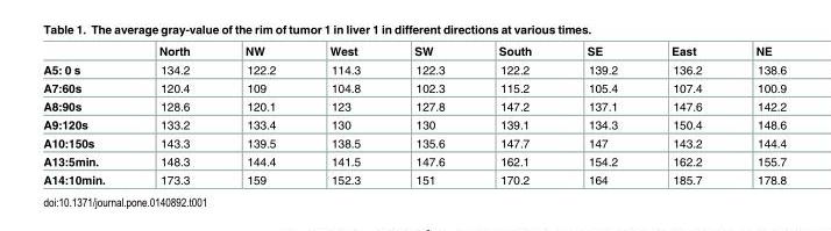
<table><thead><tr><td></td><td>North</td><td>NW</td><td>West</td><td>SW</td><td>South</td><td>SE</td><td>East</td><td>NE</td></tr></thead><tbody><tr><td>A5: 0 s</td><td>134.2</td><td>122.2</td><td>114.3</td><td>122.3</td><td>122.2</td><td>139.2</td><td>136.2</td><td>138.6</td></tr><tr><td>A7:60s</td><td>120.4</td><td>109</td><td>104.8</td><td>102.3</td><td>115.2</td><td>105.4</td><td>107.4</td><td>100.9</td></tr><tr><td>A8:90s</td><td>128.6</td><td>120.1</td><td>123</td><td>127.8</td><td>147.2</td><td>137.1</td><td>147.6</td><td>142.2</td></tr><tr><td>A9:120s</td><td>133.2</td><td>133.4</td><td>130</td><td>130</td><td>139.1</td><td>134.3</td><td>150.4</td><td>148.6</td></tr><tr><td>A10:150s</td><td>143.3</td><td>139.5</td><td>138.5</td><td>135.6</td><td>147.7</td><td>147</td><td>143.2</td><td>144.4</td></tr><tr><td>A13:5min.</td><td>148.3</td><td>144.4</td><td>141.5</td><td>147.6</td><td>162.1</td><td>154.2</td><td>162.2</td><td>155.7</td></tr><tr><td>A14:10min.</td><td>173.3</td><td>159</td><td>152.3</td><td>151</td><td>170.2</td><td>164</td><td>185.7</td><td>178.8</td></tr></tbody></table>